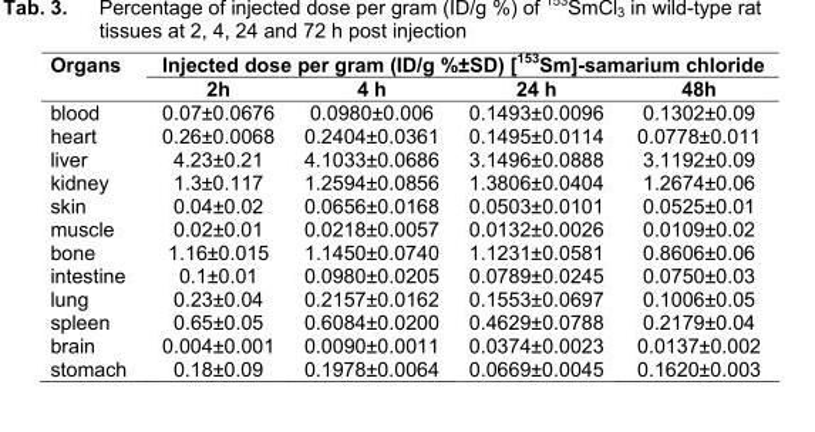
<table><thead><tr><td rowspan="2">Organs</td><td colspan="4">Injected dose per gram (ID/g %±SD) [<sup>153</sup>Sm]-samarium chloride</td></tr><tr><td>2h</td><td>4 h</td><td>24 h</td><td>48h</td></tr></thead><tbody><tr><td>blood</td><td>0.07±0.0676</td><td>0.0980±0.006</td><td>0.1493±0.0096</td><td>0.1302±0.09</td></tr><tr><td>heart</td><td>0.26±0.0068</td><td>0.2404±0.0361</td><td>0.1495±0.0114</td><td>0.0778±0.011</td></tr><tr><td>liver</td><td>4.23±0.21</td><td>4.1033±0.0686</td><td>3.1496±0.0888</td><td>3.1192±0.09</td></tr><tr><td>kidney</td><td>1.3±0.117</td><td>1.2594±0.0856</td><td>1.3806±0.0404</td><td>1.2674±0.06</td></tr><tr><td>skin</td><td>0.04±0.02</td><td>0.0656±0.0168</td><td>0.0503±0.0101</td><td>0.0525±0.01</td></tr><tr><td>muscle</td><td>0.02±0.01</td><td>0.0218±0.0057</td><td>0.0132±0.0026</td><td>0.0109±0.02</td></tr><tr><td>bone</td><td>1.16±0.015</td><td>1.1450±0.0740</td><td>1.1231±0.0581</td><td>0.8606±0.06</td></tr><tr><td>intestine</td><td>0.1±0.01</td><td>0.0980±0.0205</td><td>0.0789±0.0245</td><td>0.0750±0.03</td></tr><tr><td>lung</td><td>0.23±0.04</td><td>0.2157±0.0162</td><td>0.1553±0.0697</td><td>0.1006±0.05</td></tr><tr><td>spleen</td><td>0.65±0.05</td><td>0.6084±0.0200</td><td>0.4629±0.0788</td><td>0.2179±0.04</td></tr><tr><td>brain</td><td>0.004±0.001</td><td>0.0090±0.0011</td><td>0.0374±0.0023</td><td>0.0137±0.002</td></tr><tr><td>stomach</td><td>0.18±0.09</td><td>0.1978±0.0064</td><td>0.0669±0.0045</td><td>0.1620±0.003</td></tr></tbody></table>